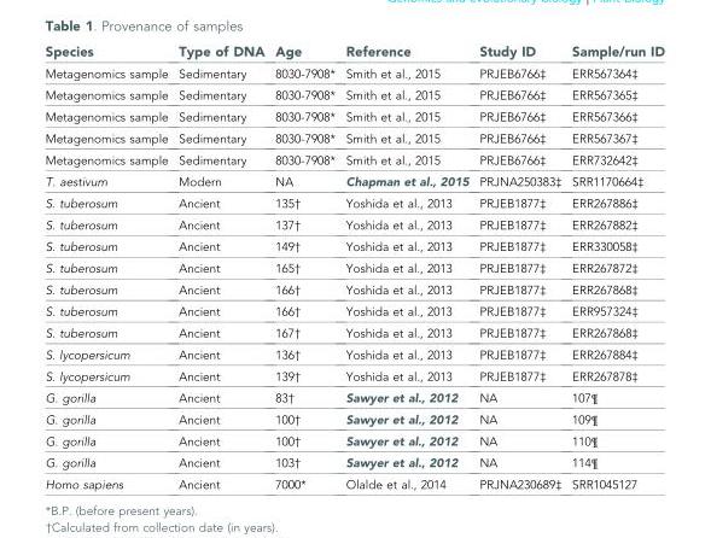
<table><thead><tr><td>Species</td><td>Type of DNA</td><td>Age</td><td>Reference</td><td>Study ID</td><td>Sample/run ID</td></tr></thead><tbody><tr><td>Metagenomics sample</td><td>Sedimentary</td><td>8030-7908*</td><td>Smith et al., 2015</td><td>PRJEB6766‡</td><td>ERR567364‡</td></tr><tr><td>Metagenomics sample</td><td>Sedimentary</td><td>8030-7908*</td><td>Smith et al., 2015</td><td>PRJEB6766‡</td><td>ERR567365‡</td></tr><tr><td>Metagenomics sample</td><td>Sedimentary</td><td>8030-7908*</td><td>Smith et al., 2015</td><td>PRJEB6766‡</td><td>ERR567366‡</td></tr><tr><td>Metagenomics sample</td><td>Sedimentary</td><td>8030-7908*</td><td>Smith et al., 2015</td><td>PRJEB6766‡</td><td>ERR567367‡</td></tr><tr><td>Metagenomics sample</td><td>Sedimentary</td><td>8030-7908*</td><td>Smith et al., 2015</td><td>PRJEB6766‡</td><td>ERR732642‡</td></tr><tr><td>T. aestivum</td><td>Modern</td><td>NA</td><td>Chapman et al., 2015</td><td>PRJNA250383‡</td><td>SRR1170664‡</td></tr><tr><td>S. tuberosum</td><td>Ancient</td><td>135†</td><td>Yoshida et al., 2013</td><td>PRJEB1877‡</td><td>ERR267886‡</td></tr><tr><td>S. tuberosum</td><td>Ancient</td><td>137†</td><td>Yoshida et al., 2013</td><td>PRJEB1877‡</td><td>ERR267882‡</td></tr><tr><td>S. tuberosum</td><td>Ancient</td><td>149†</td><td>Yoshida et al., 2013</td><td>PRJEB1877‡</td><td>ERR330058‡</td></tr><tr><td>S. tuberosum</td><td>Ancient</td><td>165†</td><td>Yoshida et al., 2013</td><td>PRJEB1877‡</td><td>ERR267872‡</td></tr><tr><td>S. tuberosum</td><td>Ancient</td><td>166†</td><td>Yoshida et al., 2013</td><td>PRJEB1877‡</td><td>ERR267868‡</td></tr><tr><td>S. tuberosum</td><td>Ancient</td><td>166†</td><td>Yoshida et al., 2013</td><td>PRJEB1877‡</td><td>ERR957324‡</td></tr><tr><td>S. tuberosum</td><td>Ancient</td><td>167†</td><td>Yoshida et al., 2013</td><td>PRJEB1877‡</td><td>ERR267868‡</td></tr><tr><td>S. lycopersicum</td><td>Ancient</td><td>136†</td><td>Yoshida et al., 2013</td><td>PRJEB1877‡</td><td>ERR267884‡</td></tr><tr><td>S. lycopersicum</td><td>Ancient</td><td>139†</td><td>Yoshida et al., 2013</td><td>PRJEB1877‡</td><td>ERR267878‡</td></tr><tr><td>G. gorilla</td><td>Ancient</td><td>83†</td><td>Sawyer et al., 2012</td><td>NA</td><td>107¶</td></tr><tr><td>G. gorilla</td><td>Ancient</td><td>100†</td><td>Sawyer et al., 2012</td><td>NA</td><td>109¶</td></tr><tr><td>G. gorilla</td><td>Ancient</td><td>100†</td><td>Sawyer et al., 2012</td><td>NA</td><td>110¶</td></tr><tr><td>G. gorilla</td><td>Ancient</td><td>103†</td><td>Sawyer et al., 2012</td><td>NA</td><td>114¶</td></tr><tr><td>Homo sapiens</td><td>Ancient</td><td>7000*</td><td>Olalde et al., 2014</td><td>PRJNA230689‡</td><td>SRR1045127</td></tr></tbody></table>